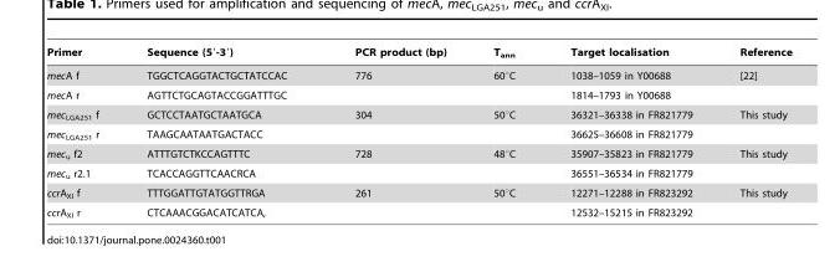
<table><thead><tr><td>Primer</td><td>Sequence (5′-3′)</td><td>PCR product (bp)</td><td>T<sub>ann</sub></td><td>Target localisation</td><td>Reference</td></tr></thead><tbody><tr><td>mecA f</td><td>TGGCTCAGGTACTGCTATCCAC</td><td>776</td><td>60°C</td><td>1038–1059 in Y00688</td><td>[22]</td></tr><tr><td>mecA r</td><td>AGTTCTGCAGTACCGGATTTGC</td><td></td><td></td><td>1814–1793 in Y00688</td><td></td></tr><tr><td>mec<sub>LGA251</sub> f</td><td>GCTCCTAATGCTAATGCA</td><td>304</td><td>50°C</td><td>36321–36338 in FR821779</td><td>This study</td></tr><tr><td>mec<sub>LGA251</sub> r</td><td>TAAGCAATAATGACTACC</td><td></td><td></td><td>36625–36608 in FR821779</td><td></td></tr><tr><td>mec<sub>u</sub> f2</td><td>ATTTGTCTKCCAGTTTC</td><td>728</td><td>48°C</td><td>35907–35823 in FR821779</td><td>This study</td></tr><tr><td>mec<sub>u</sub> r2.1</td><td>TCACCAGGTTCAACRCA</td><td></td><td></td><td>36551–36534 in FR821779</td><td></td></tr><tr><td>ccrA<sub>XI</sub> f</td><td>TTTGGATTGTATGGTTRGA</td><td>261</td><td>50°C</td><td>12271–12288 in FR823292</td><td>This study</td></tr><tr><td>ccrA<sub>XI</sub> r</td><td>CTCAAACGGACATCATCA,</td><td></td><td></td><td>12532–15215 in FR823292</td><td></td></tr></tbody></table>